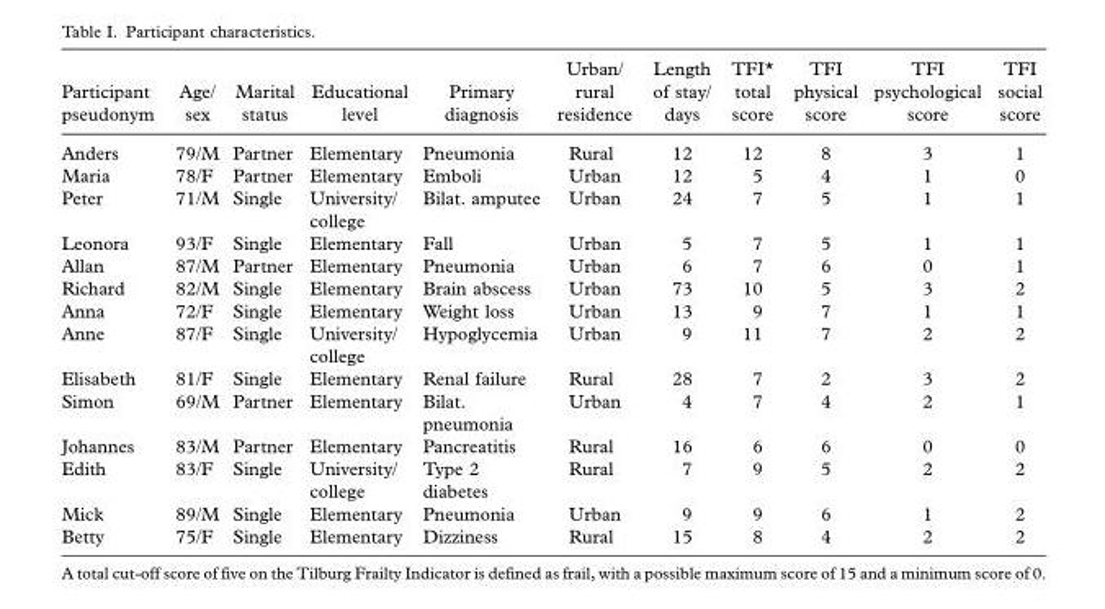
<table><thead><tr><td>Participant pseudonym</td><td>Age/ sex</td><td>Marital status</td><td>Educational level</td><td>Primary diagnosis</td><td>Urban/ rural residence</td><td>Length of stay/ days</td><td>TFI* total score</td><td>TFI physical score</td><td>TFI psychological score</td><td>TFI social score</td></tr></thead><tbody><tr><td>Anders</td><td>79/M</td><td>Partner</td><td>Elementary</td><td>Pneumonia</td><td>Rural</td><td>12</td><td>12</td><td>8</td><td>3</td><td>1</td></tr><tr><td>Maria</td><td>78/F</td><td>Partner</td><td>Elementary</td><td>Emboli</td><td>Urban</td><td>12</td><td>5</td><td>4</td><td>1</td><td>0</td></tr><tr><td>Peter</td><td>71/M</td><td>Single</td><td>University/ college</td><td>Bilat. amputee</td><td>Urban</td><td>24</td><td>7</td><td>5</td><td>1</td><td>1</td></tr><tr><td>Leonora</td><td>93/F</td><td>Single</td><td>Elementary</td><td>Fall</td><td>Urban</td><td>5</td><td>7</td><td>5</td><td>1</td><td>1</td></tr><tr><td>Allan</td><td>87/M</td><td>Partner</td><td>Elementary</td><td>Pneumonia</td><td>Urban</td><td>6</td><td>7</td><td>6</td><td>0</td><td>1</td></tr><tr><td>Richard</td><td>82/M</td><td>Single</td><td>Elementary</td><td>Brain abscess</td><td>Urban</td><td>73</td><td>10</td><td>5</td><td>3</td><td>2</td></tr><tr><td>Anna</td><td>72/F</td><td>Single</td><td>Elementary</td><td>Weight loss</td><td>Urban</td><td>13</td><td>9</td><td>7</td><td>1</td><td>1</td></tr><tr><td>Anne</td><td>87/F</td><td>Single</td><td>University/ college</td><td>Hypoglycemia</td><td>Urban</td><td>9</td><td>11</td><td>7</td><td>2</td><td>2</td></tr><tr><td>Elisabeth</td><td>81/F</td><td>Single</td><td>Elementary</td><td>Renal failure</td><td>Rural</td><td>28</td><td>7</td><td>2</td><td>3</td><td>2</td></tr><tr><td>Simon</td><td>69/M</td><td>Partner</td><td>Elementary</td><td>Bilat. pneumonia</td><td>Urban</td><td>4</td><td>7</td><td>4</td><td>2</td><td>1</td></tr><tr><td>Johannes</td><td>83/M</td><td>Partner</td><td>Elementary</td><td>Pancreatitis</td><td>Rural</td><td>16</td><td>6</td><td>6</td><td>0</td><td>0</td></tr><tr><td>Edith</td><td>83/F</td><td>Single</td><td>University/ college</td><td>Type 2 diabetes</td><td>Rural</td><td>7</td><td>9</td><td>5</td><td>2</td><td>2</td></tr><tr><td>Mick</td><td>89/M</td><td>Single</td><td>Elementary</td><td>Pneumonia</td><td>Urban</td><td>9</td><td>9</td><td>6</td><td>1</td><td>2</td></tr><tr><td>Betty</td><td>75/F</td><td>Single</td><td>Elementary</td><td>Dizziness</td><td>Rural</td><td>15</td><td>8</td><td>4</td><td>2</td><td>2</td></tr></tbody></table>